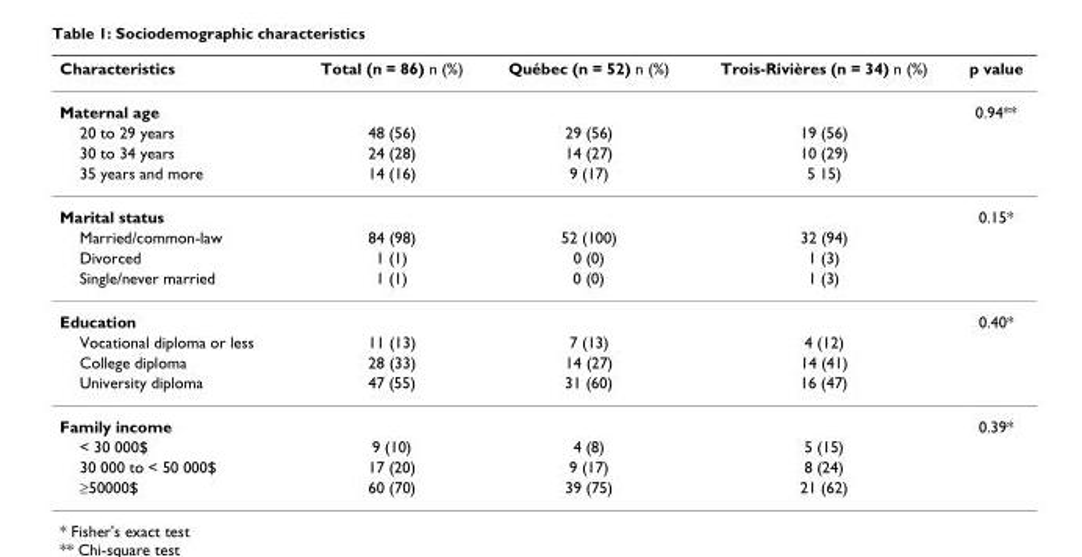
<table><thead><tr><td>Characteristics</td><td>Total (n = 86) n (%)</td><td>Québec (n = 52) n (%)</td><td>Trois-Rivières (n = 34) n (%)</td><td>p value</td></tr></thead><tbody><tr><td>Maternal age</td><td></td><td></td><td></td><td>0.94**</td></tr><tr><td>20 to 29 years</td><td>48 (56)</td><td>29 (56)</td><td>19 (56)</td><td></td></tr><tr><td>30 to 34 years</td><td>24 (28)</td><td>14 (27)</td><td>10 (29)</td><td></td></tr><tr><td>35 years and more</td><td>14 (16)</td><td>9 (17)</td><td>5 15)</td><td></td></tr><tr><td>Marital status</td><td></td><td></td><td></td><td>0.15*</td></tr><tr><td>Married/common-law</td><td>84 (98)</td><td>52 (100)</td><td>32 (94)</td><td></td></tr><tr><td>Divorced</td><td>1 (1)</td><td>0 (0)</td><td>1 (3)</td><td></td></tr><tr><td>Single/never married</td><td>1 (1)</td><td>0 (0)</td><td>1 (3)</td><td></td></tr><tr><td>Education</td><td></td><td></td><td></td><td>0.40*</td></tr><tr><td>Vocational diploma or less</td><td>11 (13)</td><td>7 (13)</td><td>4 (12)</td><td></td></tr><tr><td>College diploma</td><td>28 (33)</td><td>14 (27)</td><td>14 (41)</td><td></td></tr><tr><td>University diploma</td><td>47 (55)</td><td>31 (60)</td><td>16 (47)</td><td></td></tr><tr><td>Family income</td><td></td><td></td><td></td><td>0.39*</td></tr><tr><td>&lt; 30 000$</td><td>9 (10)</td><td>4 (8)</td><td>5 (15)</td><td></td></tr><tr><td>30 000 to &lt; 50 000$</td><td>17 (20)</td><td>9 (17)</td><td>8 (24)</td><td></td></tr><tr><td>≥50000$</td><td>60 (70)</td><td>39 (75)</td><td>21 (62)</td><td></td></tr></tbody></table>